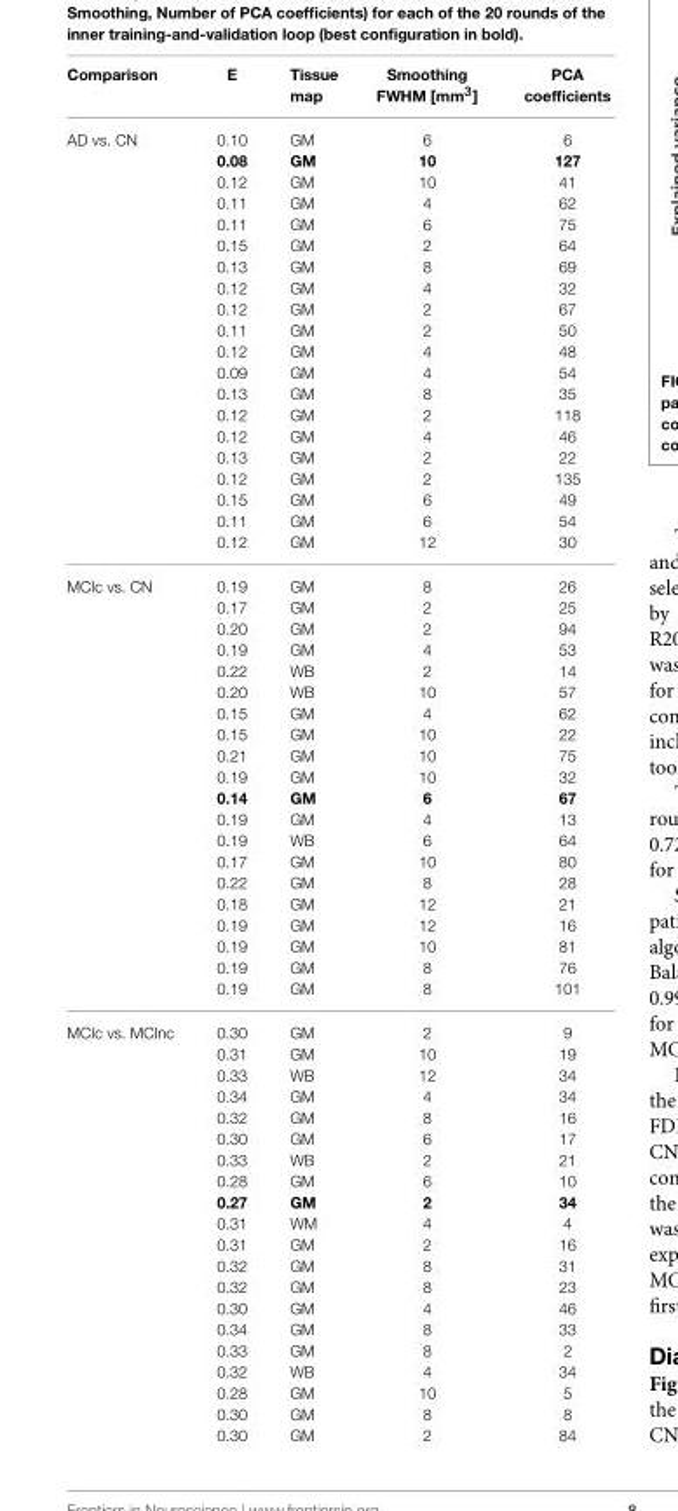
<table><thead><tr><td>Comparison</td><td>E</td><td>Tissue map</td><td>Smoothing FWHM [mm<sup>3</sup>]</td><td>PCA coefficients</td></tr></thead><tbody><tr><td>AD vs. CN</td><td>0.10 0.08 0.12 0.11 0.11 0.15 0.13 0.12 0.12 0.11 0.12 0.09 0.13 0.12 0.12 0.13 0.12 0.15 0.11 0.12</td><td>GM GM GM GM GM GM GM GM GM GM GM GM GM GM GM GM GM GM GM GM</td><td>6 10 10 4 6 2 8 4 2 2 4 4 8 2 4 2 2 6 6 12</td><td>6 127 41 62 75 64 69 32 67 50 48 54 35 118 46 22 135 49 54 30</td></tr><tr><td>MCIc vs. CN</td><td>0.19 0.17 0.20 0.19 0.22 0.20 0.15 0.15 0.21 0.19 0.14 0.19 0.19 0.17 0.22 0.18 0.19 0.19 0.19 0.19</td><td>GM GM GM GM WB WB GM GM GM GM GM GM WB GM GM GM GM GM GM GM</td><td>8 2 2 4 2 10 4 10 10 10 6 4 6 10 8 12 12 10 8 8</td><td>26 25 94 53 14 57 62 22 75 32 67 13 64 80 28 21 16 81 76 101</td></tr><tr><td>MCIc vs. MCInc</td><td>0.30 0.31 0.33 0.34 0.32 0.30 0.33 0.28 0.27 0.31 0.31 0.32 0.32 0.30 0.34 0.33 0.32 0.28 0.30 0.30</td><td>GM GM WB GM GM GM WB GM GM WM GM GM GM GM GM GM WB GM GM GM</td><td>2 10 12 4 8 6 2 6 2 4 2 8 8 4 8 8 4 10 8 2</td><td>9 19 34 34 16 17 21 10 34 4 16 31 23 46 33 2 34 5 8 84</td></tr></tbody></table>